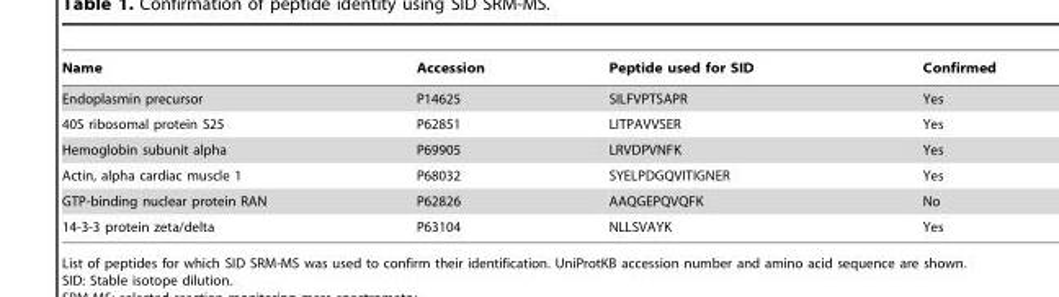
<table><thead><tr><td>Name</td><td>Accession</td><td>Peptide used for SID</td><td>Confirmed</td></tr></thead><tbody><tr><td>Endoplasmin precursor</td><td>P14625</td><td>SILFVPTSAPR</td><td>Yes</td></tr><tr><td>40S ribosomal protein S25</td><td>P62851</td><td>LITPAVVSER</td><td>Yes</td></tr><tr><td>Hemoglobin subunit alpha</td><td>P69905</td><td>LRVDPVNFK</td><td>Yes</td></tr><tr><td>Actin, alpha cardiac muscle 1</td><td>P68032</td><td>SYELPDGQVITIGNER</td><td>Yes</td></tr><tr><td>GTP-binding nuclear protein RAN</td><td>P62826</td><td>AAQGEPQVQFK</td><td>No</td></tr><tr><td>14-3-3 protein zeta/delta</td><td>P63104</td><td>NLLSVAYK</td><td>Yes</td></tr></tbody></table>